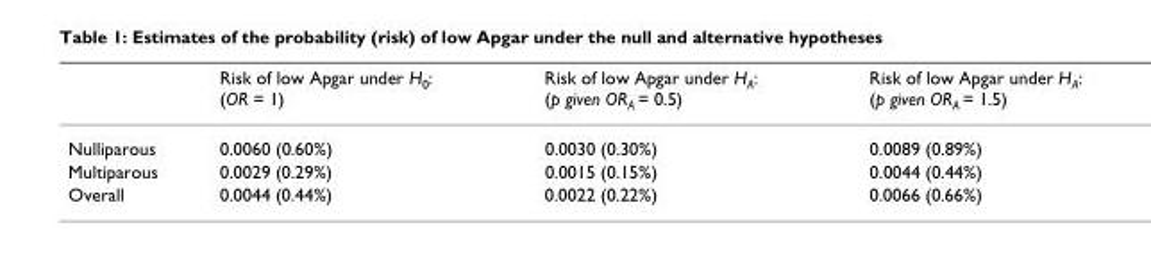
<table><thead><tr><td></td><td>Risk of low Apgar under H<sub>0</sub>: (OR = 1)</td><td>Risk of low Apgar under H<sub>A</sub>: (p given OR<sub>A</sub> = 0.5)</td><td>Risk of low Apgar under H<sub>A</sub>: (p given OR<sub>A</sub> = 1.5)</td></tr></thead><tbody><tr><td>Nulliparous</td><td>0.0060 (0.60%)</td><td>0.0030 (0.30%)</td><td>0.0089 (0.89%)</td></tr><tr><td>Multiparous</td><td>0.0029 (0.29%)</td><td>0.0015 (0.15%)</td><td>0.0044 (0.44%)</td></tr><tr><td>Overall</td><td>0.0044 (0.44%)</td><td>0.0022 (0.22%)</td><td>0.0066 (0.66%)</td></tr></tbody></table>